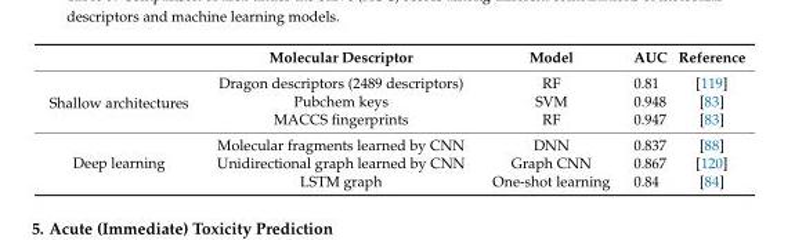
<table><thead><tr><td></td><td>Molecular Descriptor</td><td>Model</td><td>AUC</td><td>Reference</td></tr></thead><tbody><tr><td rowspan="3">Shallow architectures</td><td>Dragon descriptors (2489 descriptors)</td><td>RF</td><td>0.81</td><td>[119]</td></tr><tr><td>Pubchem keys</td><td>SVM</td><td>0.948</td><td>[83]</td></tr><tr><td>MACCS fingerprints</td><td>RF</td><td>0.947</td><td>[83]</td></tr><tr><td rowspan="3">Deep learning</td><td>Molecular fragments learned by CNN</td><td>DNN</td><td>0.837</td><td>[88]</td></tr><tr><td>Unidirectional graph learned by CNN</td><td>Graph CNN</td><td>0.867</td><td>[120]</td></tr><tr><td>LSTM graph</td><td>One-shot learning</td><td>0.84</td><td>[84]</td></tr></tbody></table>